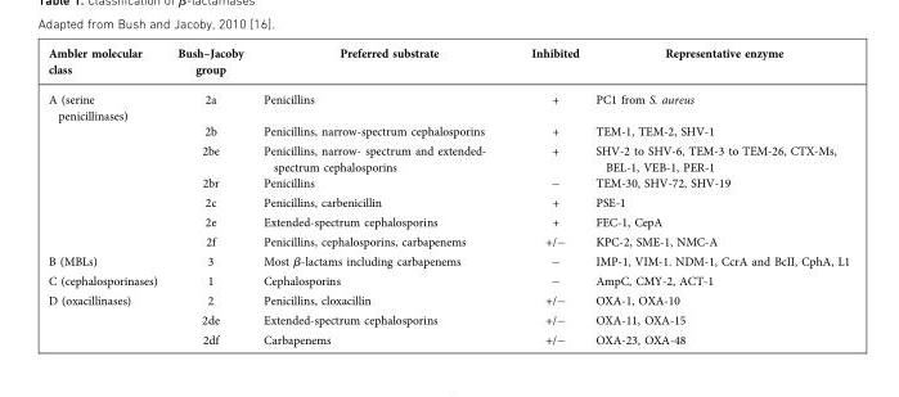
<table><thead><tr><td>Ambler molecular class</td><td>Bush–Jacoby group</td><td>Preferred substrate</td><td>Inhibited</td><td>Representative enzyme</td></tr></thead><tbody><tr><td rowspan="7">A (serine penicillinases)</td><td>2a</td><td>Penicillins</td><td>+</td><td>PC1 from S. aureus</td></tr><tr><td>2b</td><td>Penicillins, narrow-spectrum cephalosporins</td><td>+</td><td>TEM-1, TEM-2, SHV-1</td></tr><tr><td>2be</td><td>Penicillins, narrow- spectrum and extended- spectrum cephalosporins</td><td>+</td><td>SHV-2 to SHV-6, TEM-3 to TEM-26, CTX-Ms, BEL-1, VEB-1, PER-1</td></tr><tr><td>2br</td><td>Penicillins</td><td>−</td><td>TEM-30, SHV-72, SHV-19</td></tr><tr><td>2c</td><td>Penicillins, carbenicillin</td><td>+</td><td>PSE-1</td></tr><tr><td>2e</td><td>Extended-spectrum cephalosporins</td><td>+</td><td>FEC-1, CepA</td></tr><tr><td>2f</td><td>Penicillins, cephalosporins, carbapenems</td><td>+/−</td><td>KPC-2, SME-1, NMC-A</td></tr><tr><td>B (MBLs)</td><td>3</td><td>Most β-lactams including carbapenems</td><td>−</td><td>IMP-1, VIM-1. NDM-1, CcrA and BcII, CphA, L1</td></tr><tr><td>C (cephalosporinases)</td><td>1</td><td>Cephalosporins</td><td>−</td><td>AmpC, CMY-2, ACT-1</td></tr><tr><td rowspan="3">D (oxacillinases)</td><td>2</td><td>Penicillins, cloxacillin</td><td>+/−</td><td>OXA-1, OXA-10</td></tr><tr><td>2de</td><td>Extended-spectrum cephalosporins</td><td>+/−</td><td>OXA-11, OXA-15</td></tr><tr><td>2df</td><td>Carbapenems</td><td>+/−</td><td>OXA-23, OXA-48</td></tr></tbody></table>